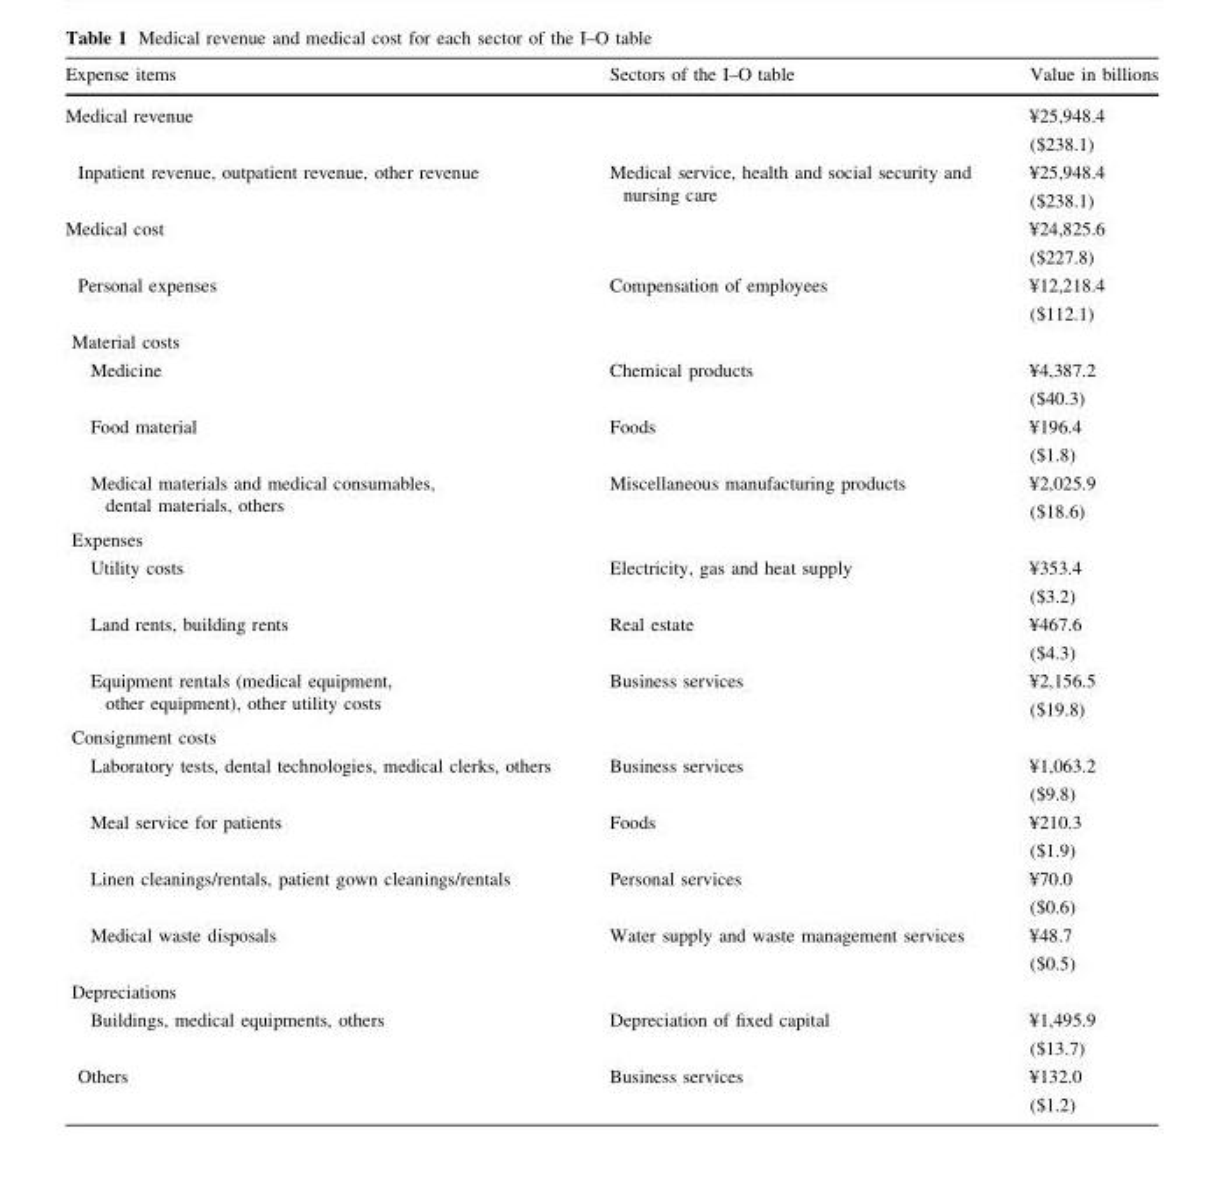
<table><thead><tr><td>Expense items</td><td>Sectors of the I–O table</td><td>Value in billions</td></tr></thead><tbody><tr><td>Medical revenue</td><td></td><td>¥25,948.4 ($238.1)</td></tr><tr><td>Inpatient revenue, outpatient revenue, other revenue</td><td>Medical service, health and social security and nursing care</td><td>¥25,948.4 ($238.1)</td></tr><tr><td>Medical cost</td><td></td><td>¥24,825.6 ($227.8)</td></tr><tr><td>Personal expenses</td><td>Compensation of employees</td><td>¥12,218.4 ($112.1)</td></tr><tr><td colspan="3">Material costs</td></tr><tr><td>Medicine</td><td>Chemical products</td><td>¥4,387.2 ($40.3)</td></tr><tr><td>Food material</td><td>Foods</td><td>¥196.4 ($1.8)</td></tr><tr><td>Medical materials and medical consumables, dental materials, others</td><td>Miscellaneous manufacturing products</td><td>¥2,025.9 ($18.6)</td></tr><tr><td colspan="3">Expenses</td></tr><tr><td>Utility costs</td><td>Electricity, gas and heat supply</td><td>¥353.4 ($3.2)</td></tr><tr><td>Land rents, building rents</td><td>Real estate</td><td>¥467.6 ($4.3)</td></tr><tr><td>Equipment rentals (medical equipment, other equipment), other utility costs</td><td>Business services</td><td>¥2,156.5 ($19.8)</td></tr><tr><td colspan="3">Consignment costs</td></tr><tr><td>Laboratory tests, dental technologies, medical clerks, others</td><td>Business services</td><td>¥1,063.2 ($9.8)</td></tr><tr><td>Meal service for patients</td><td>Foods</td><td>¥210.3 ($1.9)</td></tr><tr><td>Linen cleanings/rentals, patient gown cleanings/rentals</td><td>Personal services</td><td>¥70.0 ($0.6)</td></tr><tr><td>Medical waste disposals</td><td>Water supply and waste management services</td><td>¥48.7 ($0.5)</td></tr><tr><td colspan="3">Depreciations</td></tr><tr><td>Buildings, medical equipments, others</td><td>Depreciation of fixed capital</td><td>¥1,495.9 ($13.7)</td></tr><tr><td>Others</td><td>Business services</td><td>¥132.0 ($1.2)</td></tr></tbody></table>